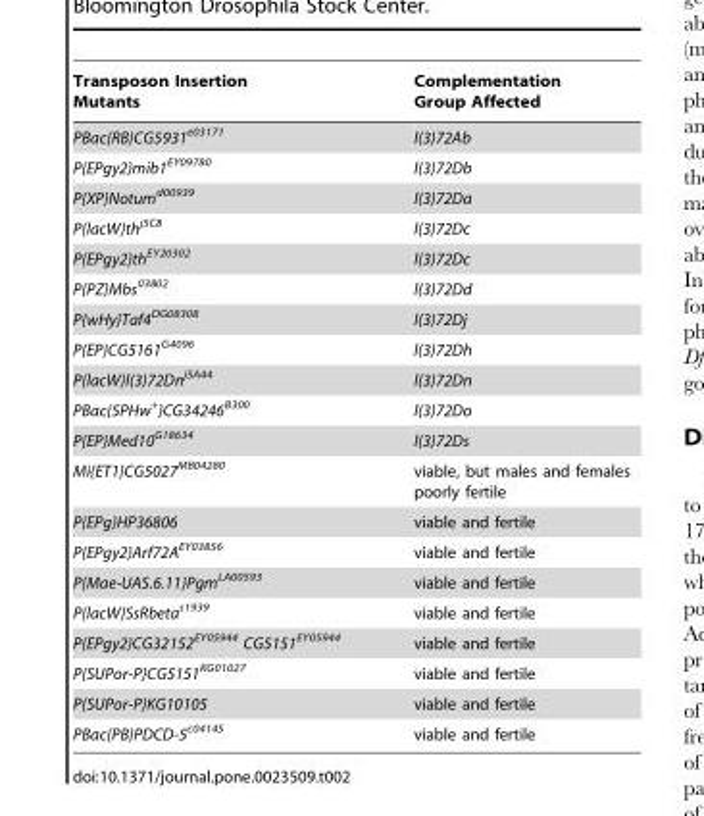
<table><thead><tr><td>Transposon Insertion Mutants</td><td>Complementation Group Affected</td></tr></thead><tbody><tr><td>PBac{RB}CG5931<sup>e03171</sup></td><td>l(3)72Ab</td></tr><tr><td>P{EPgy2}mib1<sup>EY09780</sup></td><td>l(3)72Db</td></tr><tr><td>P{XP}Notum<sup>d00939</sup></td><td>l(3)72Da</td></tr><tr><td>P{lacW}th<sup>j5C8</sup></td><td>l(3)72Dc</td></tr><tr><td>P{EPgy2}th<sup>EY20302</sup></td><td>l(3)72Dc</td></tr><tr><td>P{PZ}Mbs<sup>03802</sup></td><td>l(3)72Dd</td></tr><tr><td>P{wHy}Taf4<sup>DG08308</sup></td><td>l(3)72Dj</td></tr><tr><td>P{EP}CG5161<sup>G4096</sup></td><td>l(3)72Dh</td></tr><tr><td>P{lacW}l(3)72Dn<sup>j5A44</sup></td><td>l(3)72Dn</td></tr><tr><td>PBac{5PHw<sup>+</sup>}CG34246<sup>B300</sup></td><td>l(3)72Do</td></tr><tr><td>P{EP}Med10<sup>G18634</sup></td><td>l(3)72Ds</td></tr><tr><td>Mi{ET1}CG5027<sup>MB04280</sup></td><td>viable, but males and females poorly fertile</td></tr><tr><td>P{EPg}HP36806</td><td>viable and fertile</td></tr><tr><td>P{EPgy2}Arf72A<sup>EY03856</sup></td><td>viable and fertile</td></tr><tr><td>P{Mae-UAS.6.11}Pgm<sup>LA00593</sup></td><td>viable and fertile</td></tr><tr><td>P{lacW}SsRbeta<sup>s1939</sup></td><td>viable and fertile</td></tr><tr><td>P{EPgy2}CG32152<sup>EY05944</sup> CG5151<sup>EY05944</sup></td><td>viable and fertile</td></tr><tr><td>P{SUPor-P}CG5151<sup>KG01027</sup></td><td>viable and fertile</td></tr><tr><td>P{SUPor-P}KG10105</td><td>viable and fertile</td></tr><tr><td>PBac{PB}PDCD-5<sup>c04145</sup></td><td>viable and fertile</td></tr></tbody></table>